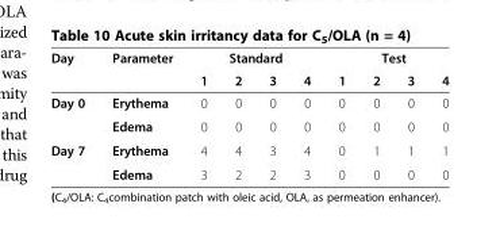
<table><thead><tr><td rowspan="2">Day</td><td rowspan="2">Parameter</td><td colspan="4">Standard</td><td colspan="4">Test</td></tr><tr><td>1</td><td>2</td><td>3</td><td>4</td><td>1</td><td>2</td><td>3</td><td>4</td></tr></thead><tbody><tr><td rowspan="2">Day 0</td><td>Erythema</td><td>0</td><td>0</td><td>0</td><td>0</td><td>0</td><td>0</td><td>0</td><td>0</td></tr><tr><td>Edema</td><td>0</td><td>0</td><td>0</td><td>0</td><td>0</td><td>0</td><td>0</td><td>0</td></tr><tr><td rowspan="2">Day 7</td><td>Erythema</td><td>4</td><td>4</td><td>3</td><td>4</td><td>0</td><td>1</td><td>1</td><td>1</td></tr><tr><td>Edema</td><td>3</td><td>2</td><td>2</td><td>3</td><td>0</td><td>0</td><td>0</td><td>0</td></tr></tbody></table>